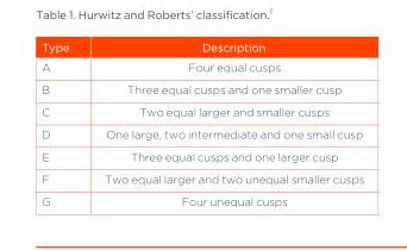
<table><thead><tr><td>Type</td><td>Description</td></tr></thead><tbody><tr><td>A</td><td>Four equal cusps</td></tr><tr><td>B</td><td>Three equal cusps and one smaller cusp</td></tr><tr><td>C</td><td>Two equal larger and smaller cusps</td></tr><tr><td>D</td><td>One large, two intermediate and one small cusp</td></tr><tr><td>E</td><td>Three equal cusps and one larger cusp</td></tr><tr><td>F</td><td>Two equal larger and two unequal smaller cusps</td></tr><tr><td>G</td><td>Four unequal cusps</td></tr></tbody></table>